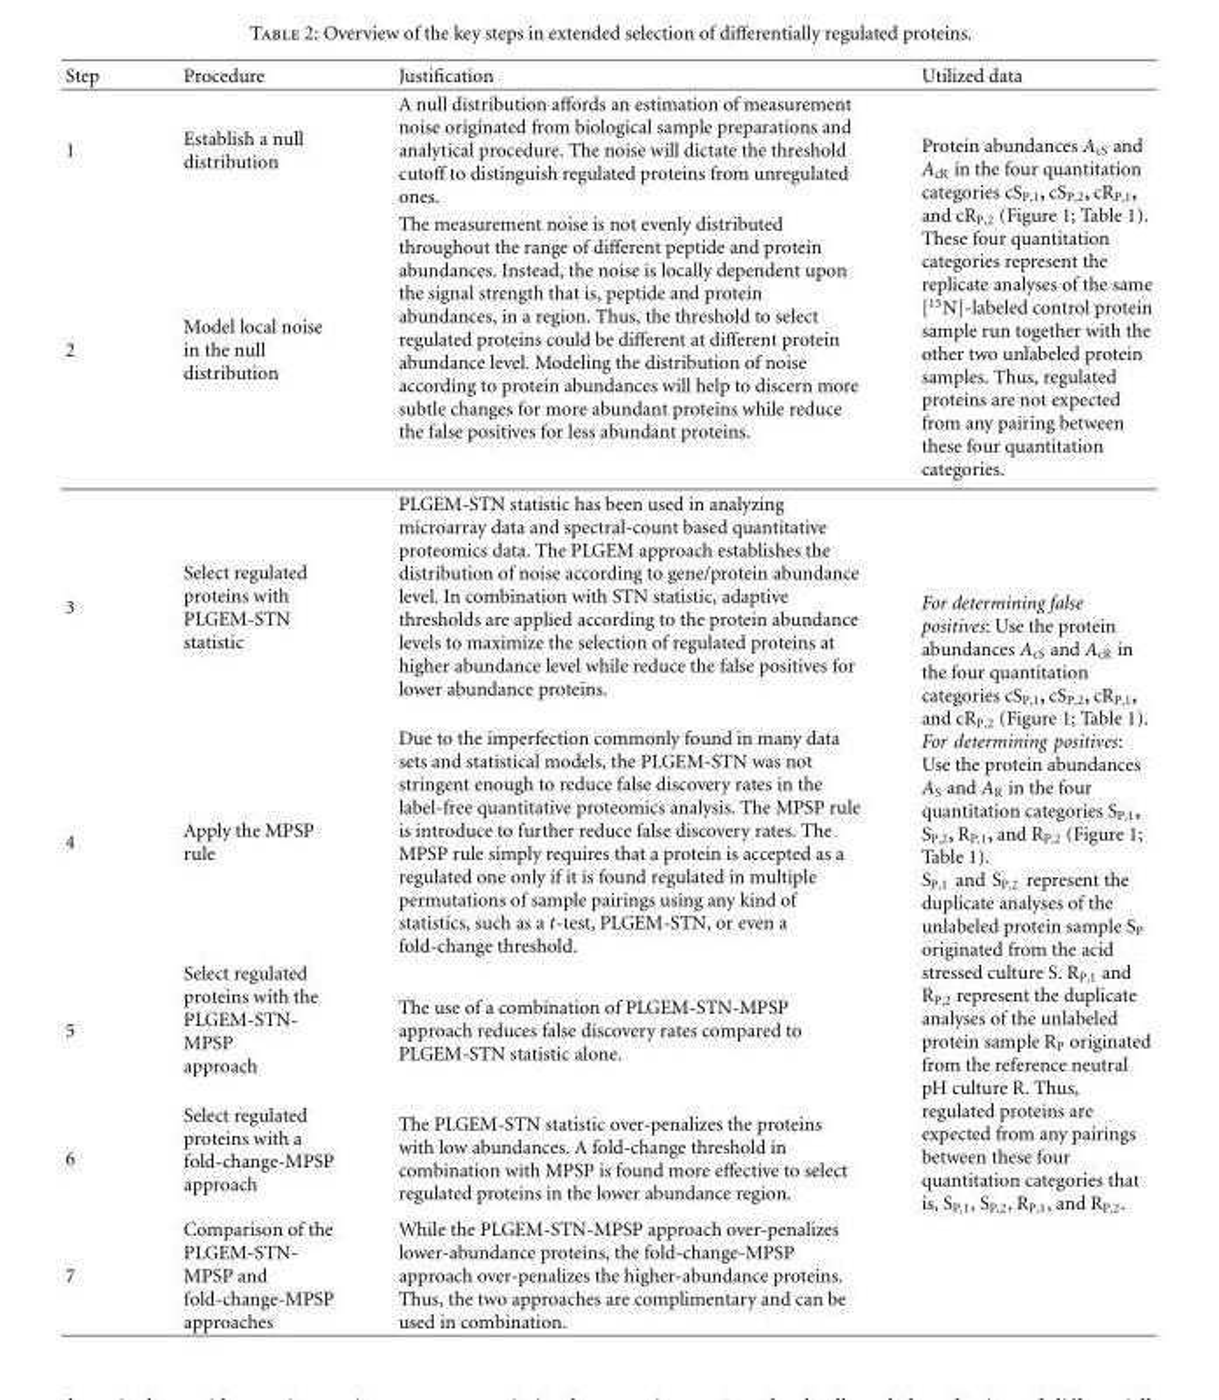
<table><thead><tr><td>Step</td><td>Procedure</td><td>Justification</td><td>Utilized data</td></tr></thead><tbody><tr><td>1</td><td>Establish a null distribution</td><td>A null distribution affords an estimation of measurement noise originated from biological sample preparations and analytical procedure. The noise will dictate the threshold cutoff to distinguish regulated proteins from unregulated ones.</td><td rowspan="2">Protein abundances A<sub>cS</sub> and A<sub>cR</sub> in the four quantitation categories cS<sub>P,1</sub>, cS<sub>P,2</sub>, cR<sub>P,1</sub>, and cR<sub>P,2</sub> (Figure 1; Table 1). These four quantitation categories represent the replicate analyses of the same [<sup>15</sup>N]-labeled control protein sample run together with the other two unlabeled protein samples. Thus, regulated proteins are not expected from any pairing between these four quantitation categories.</td></tr><tr><td>2</td><td>Model local noise in the null distribution</td><td>The measurement noise is not evenly distributed throughout the range of different peptide and protein abundances. Instead, the noise is locally dependent upon the signal strength that is, peptide and protein abundances, in a region. Thus, the threshold to select regulated proteins could be different at different protein abundance level. Modeling the distribution of noise according to protein abundances will help to discern more subtle changes for more abundant proteins while reduce the false positives for less abundant proteins.</td></tr><tr><td>3</td><td>Select regulated proteins with PLGEM-STN statistic</td><td>PLGEM-STN statistic has been used in analyzing microarray data and spectral-count based quantitative proteomics data. The PLGEM approach establishes the distribution of noise according to gene/protein abundance level. In combination with STN statistic, adaptive thresholds are applied according to the protein abundance levels to maximize the selection of regulated proteins at higher abundance level while reduce the false positives for lower abundance proteins.</td><td rowspan="5">For determining false positives: Use the protein abundances A<sub>cS</sub> and A<sub>cR</sub> in the four quantitation categories cS<sub>P,1</sub>, cS<sub>P,2</sub>, cR<sub>P,1</sub>, and cR<sub>P,2</sub> (Figure 1; Table 1). For determining positives: Use the protein abundances A<sub>S</sub> and A<sub>R</sub> in the four quantitation categories S<sub>P,1</sub>, S<sub>P,2</sub>, R<sub>P,1</sub>, and R<sub>P,2</sub> (Figure 1; Table 1). S<sub>P,1</sub> and S<sub>P,2</sub> represent the duplicate analyses of the unlabeled protein sample S<sub>P</sub> originated from the acid stressed culture S. R<sub>P,1</sub> and R<sub>P,2</sub> represent the duplicate analyses of the unlabeled protein sample R<sub>P</sub> originated from the reference neutral pH culture R. Thus, regulated proteins are expected from any pairings between these four quantitation categories that is, S<sub>P,1</sub>, S<sub>P,2</sub>, R<sub>P,1</sub>, and R<sub>P,2</sub>.</td></tr><tr><td>4</td><td>Apply the MPSP rule</td><td>Due to the imperfection commonly found in many data sets and statistical models, the PLGEM-STN was not stringent enough to reduce false discovery rates in the label-free quantitative proteomics analysis. The MPSP rule is introduce to further reduce false discovery rates. The MPSP rule simply requires that a protein is accepted as a regulated one only if it is found regulated in multiple permutations of sample pairings using any kind of statistics, such as a t-test, PLGEM-STN, or even a fold-change threshold.</td></tr><tr><td>5</td><td>Select regulated proteins with the PLGEM-STN- MPSP approach</td><td>The use of a combination of PLGEM-STN-MPSP approach reduces false discovery rates compared to PLGEM-STN statistic alone.</td></tr><tr><td>6</td><td>Select regulated proteins with a fold-change-MPSP approach</td><td>The PLGEM-STN statistic over-penalizes the proteins with low abundances. A fold-change threshold in combination with MPSP is found more effective to select regulated proteins in the lower abundance region.</td></tr><tr><td>7</td><td>Comparison of the PLGEM-STN- MPSP and fold-change-MPSP approaches</td><td>While the PLGEM-STN-MPSP approach over-penalizes lower-abundance proteins, the fold-change-MPSP approach over-penalizes the higher-abundance proteins. Thus, the two approaches are complimentary and can be used in combination.</td></tr></tbody></table>